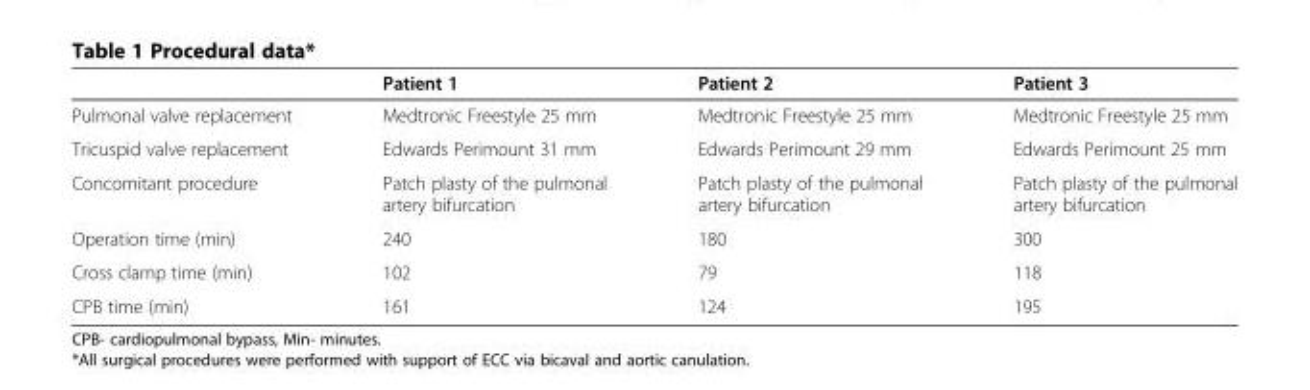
<table><thead><tr><td></td><td>Patient 1</td><td>Patient 2</td><td>Patient 3</td></tr></thead><tbody><tr><td>Pulmonal valve replacement</td><td>Medtronic Freestyle 25 mm</td><td>Medtronic Freestyle 25 mm</td><td>Medtronic Freestyle 25 mm</td></tr><tr><td>Tricuspid valve replacement</td><td>Edwards Perimount 31 mm</td><td>Edwards Perimount 29 mm</td><td>Edwards Perimount 25 mm</td></tr><tr><td>Concomitant procedure</td><td>Patch plasty of the pulmonal artery bifurcation</td><td>Patch plasty of the pulmonal artery bifurcation</td><td>Patch plasty of the pulmonal artery bifurcation</td></tr><tr><td>Operation time (min)</td><td>240</td><td>180</td><td>300</td></tr><tr><td>Cross clamp time (min)</td><td>102</td><td>79</td><td>118</td></tr><tr><td>CPB time (min)</td><td>161</td><td>124</td><td>195</td></tr></tbody></table>